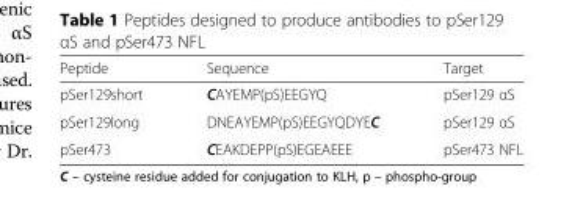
<table><thead><tr><td>Peptide</td><td>Sequence</td><td>Target</td></tr></thead><tbody><tr><td>pSer129short</td><td>CAYEMP(pS)EEGYQ</td><td>pSer129 αS</td></tr><tr><td>pSer129long</td><td>DNEAYEMP(pS)EEGYQDYEC</td><td>pSer129 αS</td></tr><tr><td>pSer473</td><td>CEAKDEPP(pS)EGEAEEE</td><td>pSer473 NFL</td></tr></tbody></table>